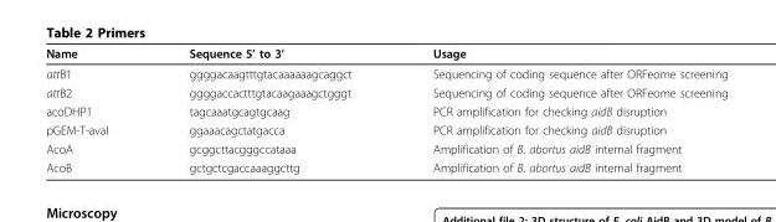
<table><thead><tr><td>Name</td><td>Sequence 5’ to 3’</td><td>Usage</td></tr></thead><tbody><tr><td>attB1</td><td>ggggacaagtttgtacaaaaaagcaggct</td><td>Sequencing of coding sequence after ORFeome screening</td></tr><tr><td>attB2</td><td>ggggaccactttgtacaagaaagctgggt</td><td>Sequencing of coding sequence after ORFeome screening</td></tr><tr><td>acoDHP1</td><td>tagcaaatgcagtgcaag</td><td>PCR amplification for checking aidB disruption</td></tr><tr><td>pGEM-T-aval</td><td>ggaaacagctatgacca</td><td>PCR amplification for checking aidB disruption</td></tr><tr><td>AcoA</td><td>gcggcttacgggccataaa</td><td>Amplification of B. abortus aidB internal fragment</td></tr><tr><td>AcoB</td><td>gctgctcgaccaaaggcttg</td><td>Amplification of B. abortus aidB internal fragment</td></tr></tbody></table>